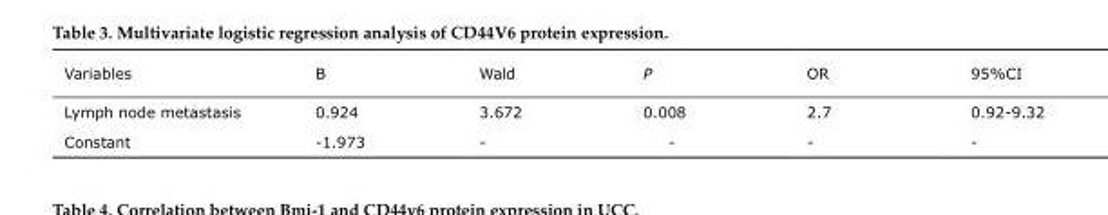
<table><thead><tr><td>Variables</td><td>B</td><td>Wald</td><td>P</td><td>OR</td><td>95%CI</td></tr></thead><tbody><tr><td>Lymph node metastasis</td><td>0.924</td><td>3.672</td><td>0.008</td><td>2.7</td><td>0.92-9.32</td></tr><tr><td>Constant</td><td>-1.973</td><td>-</td><td>-</td><td>-</td><td>-</td></tr></tbody></table>